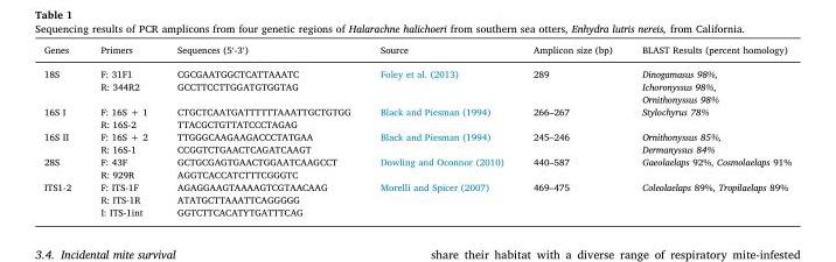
<table><thead><tr><td>Genes</td><td>Primers</td><td>Sequences (5‘-3‘)</td><td>Source</td><td>Amplicon size (bp)</td><td>BLAST Results (percent homology)</td></tr></thead><tbody><tr><td>18S</td><td>F: 31F1 R: 344R2</td><td>CGCGAATGGCTCATTAAATC GCCTTCCTTGGATGTGGTAG</td><td>Foley et al. (2013)</td><td>289</td><td>Dinogamasus 98%, Ichoronyssus 98%, Ornithonyssus 98%</td></tr><tr><td>16S I</td><td>F: 16S + 1 R: 16S-2</td><td>CTGCTCAATGATTTTTTAAATTGCTGTGG TTACGCTGTTATCCCTAGAG</td><td>Black and Piesman (1994)</td><td>266–267</td><td>Stylochyrus 78%</td></tr><tr><td>16S II</td><td>F: 16S + 2 R: 16S-1</td><td>TTGGGCAAGAAGACCCTATGAA CCGGTCTGAACTCAGATCAAGT</td><td>Black and Piesman (1994)</td><td>245–246</td><td>Ornithonyssus 85%, Dermanyssus 84%</td></tr><tr><td>28S</td><td>F: 43F R: 929R</td><td>GCTGCGAGTGAACTGGAATCAAGCCT AGGTCACCATCTTTCGGGTC</td><td>Dowling and Oconnor (2010)</td><td>440–587</td><td>Gaeolaelaps 92%, Cosmolaelaps 91%</td></tr><tr><td>ITS1-2</td><td>F: ITS-1F R: ITS-1R I: ITS-1int</td><td>AGAGGAAGTAAAAGTCGTAACAAG ATATGCTTAAATTCAGGGGG GGTCTTCACATYTGATTTCAG</td><td>Morelli and Spicer (2007)</td><td>469–475</td><td>Coleolaelaps 89%, Tropilaelaps 89%</td></tr></tbody></table>